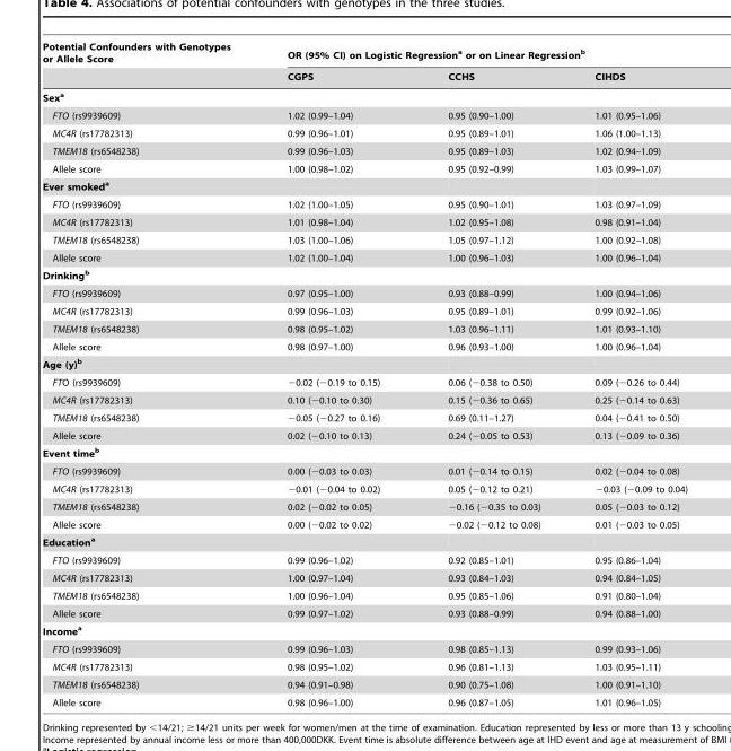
<table><thead><tr><td rowspan="2">Potential Confounders with Genotypes or Allele Score</td><td colspan="3">OR (95% CI) on Logistic Regression<sup>a</sup> or on Linear Regression<sup>b</sup></td></tr><tr><td>CGPS</td><td>CCHS</td><td>CIHDS</td></tr></thead><tbody><tr><td colspan="4">Sexa</td></tr><tr><td>FTO (rs9939609)</td><td>1.02 (0.99–1.04)</td><td>0.95 (0.90–1.00)</td><td>1.01 (0.95–1.06)</td></tr><tr><td>MC4R (rs17782313)</td><td>0.99 (0.96–1.01)</td><td>0.95 (0.89–1.01)</td><td>1.06 (1.00–1.13)</td></tr><tr><td>TMEM18 (rs6548238)</td><td>0.99 (0.96–1.03)</td><td>0.95 (0.89–1.03)</td><td>1.02 (0.94–1.09)</td></tr><tr><td>Allele score</td><td>1.00 (0.98–1.02)</td><td>0.95 (0.92–0.99)</td><td>1.03 (0.99–1.07)</td></tr><tr><td colspan="4">Ever smokeda</td></tr><tr><td>FTO (rs9939609)</td><td>1.02 (1.00–1.05)</td><td>0.95 (0.90–1.01)</td><td>1.03 (0.97–1.09)</td></tr><tr><td>MC4R (rs17782313)</td><td>1.01 (0.98–1.04)</td><td>1.02 (0.95–1.08)</td><td>0.98 (0.91–1.04)</td></tr><tr><td>TMEM18 (rs6548238)</td><td>1.03 (1.00–1.06)</td><td>1.05 (0.97–1.12)</td><td>1.00 (0.92–1.08)</td></tr><tr><td>Allele score</td><td>1.02 (1.00–1.04)</td><td>1.00 (0.96–1.03)</td><td>1.00 (0.96–1.04)</td></tr><tr><td colspan="4">Drinkingb</td></tr><tr><td>FTO (rs9939609)</td><td>0.97 (0.95–1.00)</td><td>0.93 (0.88–0.99)</td><td>1.00 (0.94–1.06)</td></tr><tr><td>MC4R (rs17782313)</td><td>0.99 (0.96–1.03)</td><td>0.95 (0.89–1.01)</td><td>0.99 (0.92–1.06)</td></tr><tr><td>TMEM18 (rs6548238)</td><td>0.98 (0.95–1.02)</td><td>1.03 (0.96–1.11)</td><td>1.01 (0.93–1.10)</td></tr><tr><td>Allele score</td><td>0.98 (0.97–1.00)</td><td>0.96 (0.93–1.00)</td><td>1.00 (0.96–1.04)</td></tr><tr><td colspan="4">Age (y)b</td></tr><tr><td>FTO (rs9939609)</td><td>−0.02 (−0.19 to 0.15)</td><td>0.06 (−0.38 to 0.50)</td><td>0.09 (−0.26 to 0.44)</td></tr><tr><td>MC4R (rs17782313)</td><td>0.10 (−0.10 to 0.30)</td><td>0.15 (−0.36 to 0.65)</td><td>0.25 (−0.14 to 0.63)</td></tr><tr><td>TMEM18 (rs6548238)</td><td>−0.05 (−0.27 to 0.16)</td><td>0.69 (0.11–1.27)</td><td>0.04 (−0.41 to 0.50)</td></tr><tr><td>Allele score</td><td>0.02 (−0.10 to 0.13)</td><td>0.24 (−0.05 to 0.53)</td><td>0.13 (−0.09 to 0.36)</td></tr><tr><td colspan="4">Event timeb</td></tr><tr><td>FTO (rs9939609)</td><td>0.00 (−0.03 to 0.03)</td><td>0.01 (−0.14 to 0.15)</td><td>0.02 (−0.04 to 0.08)</td></tr><tr><td>MC4R (rs17782313)</td><td>−0.01 (−0.04 to 0.02)</td><td>0.05 (−0.12 to 0.21)</td><td>−0.03 (−0.09 to 0.04)</td></tr><tr><td>TMEM18 (rs6548238)</td><td>0.02 (−0.02 to 0.05)</td><td>−0.16 (−0.35 to 0.03)</td><td>0.05 (−0.03 to 0.12)</td></tr><tr><td>Allele score</td><td>0.00 (−0.02 to 0.02)</td><td>−0.02 (−0.12 to 0.08)</td><td>0.01 (−0.03 to 0.05)</td></tr><tr><td colspan="4">Educationa</td></tr><tr><td>FTO (rs9939609)</td><td>0.99 (0.96–1.02)</td><td>0.92 (0.85–1.01)</td><td>0.95 (0.86–1.04)</td></tr><tr><td>MC4R (rs17782313)</td><td>1.00 (0.97–1.04)</td><td>0.93 (0.84–1.03)</td><td>0.94 (0.84–1.05)</td></tr><tr><td>TMEM18 (rs6548238)</td><td>1.00 (0.96–1.04)</td><td>0.95 (0.85–1.06)</td><td>0.91 (0.80–1.04)</td></tr><tr><td>Allele score</td><td>0.99 (0.97–1.02)</td><td>0.93 (0.88–0.99)</td><td>0.94 (0.88–1.00)</td></tr><tr><td colspan="4">Incomea</td></tr><tr><td>FTO (rs9939609)</td><td>0.99 (0.96–1.03)</td><td>0.98 (0.85–1.13)</td><td>0.99 (0.93–1.06)</td></tr><tr><td>MC4R (rs17782313)</td><td>0.98 (0.95–1.02)</td><td>0.96 (0.81–1.13)</td><td>1.03 (0.95–1.11)</td></tr><tr><td>TMEM18 (rs6548238)</td><td>0.94 (0.91–0.98)</td><td>0.90 (0.75–1.08)</td><td>1.00 (0.91–1.10)</td></tr><tr><td>Allele score</td><td>0.98 (0.96–1.00)</td><td>0.96 (0.87–1.05)</td><td>1.01 (0.96–1.05)</td></tr></tbody></table>